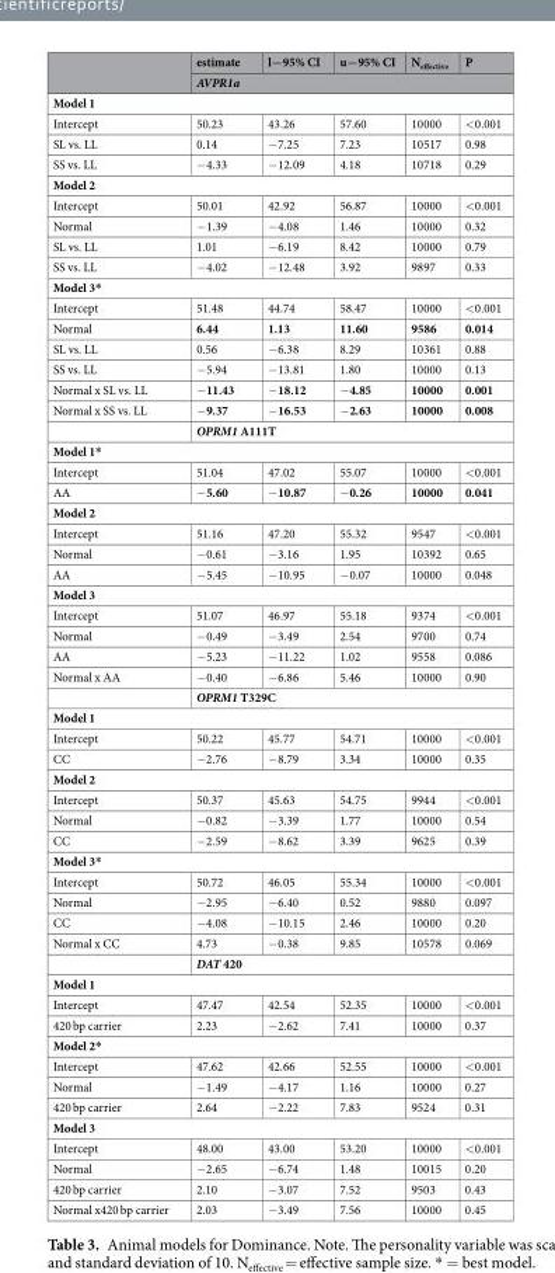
<table><thead><tr><td rowspan="2"></td><td>estimate</td><td>l−95% CI</td><td>u−95% CI</td><td>N<sub>effective</sub></td><td>P</td></tr><tr><td colspan="5">AVPR1a</td></tr></thead><tbody><tr><td colspan="6">Model 1</td></tr><tr><td>Intercept</td><td>50.23</td><td>43.26</td><td>57.60</td><td>10000</td><td>&lt;0.001</td></tr><tr><td>SL vs. LL</td><td>0.14</td><td>−7.25</td><td>7.23</td><td>10517</td><td>0.98</td></tr><tr><td>SS vs. LL</td><td>−4.33</td><td>−12.09</td><td>4.18</td><td>10718</td><td>0.29</td></tr><tr><td colspan="6">Model 2</td></tr><tr><td>Intercept</td><td>50.01</td><td>42.92</td><td>56.87</td><td>10000</td><td>&lt;0.001</td></tr><tr><td>Normal</td><td>−1.39</td><td>−4.08</td><td>1.46</td><td>10000</td><td>0.32</td></tr><tr><td>SL vs. LL</td><td>1.01</td><td>−6.19</td><td>8.42</td><td>10000</td><td>0.79</td></tr><tr><td>SS vs. LL</td><td>−4.02</td><td>−12.48</td><td>3.92</td><td>9897</td><td>0.33</td></tr><tr><td colspan="6">Model 3*</td></tr><tr><td>Intercept</td><td>51.48</td><td>44.74</td><td>58.47</td><td>10000</td><td>&lt;0.001</td></tr><tr><td>Normal</td><td>6.44</td><td>1.13</td><td>11.60</td><td>9586</td><td>0.014</td></tr><tr><td>SL vs. LL</td><td>0.56</td><td>−6.38</td><td>8.29</td><td>10361</td><td>0.88</td></tr><tr><td>SS vs. LL</td><td>−5.94</td><td>−13.81</td><td>1.80</td><td>10000</td><td>0.13</td></tr><tr><td>Normal x SL vs. LL</td><td>−11.43</td><td>−18.12</td><td>−4.85</td><td>10000</td><td>0.001</td></tr><tr><td rowspan="2">Normal x SS vs. LL</td><td>−9.37</td><td>−16.53</td><td>−2.63</td><td>10000</td><td>0.008</td></tr><tr><td colspan="5">OPRM1 A111T</td></tr><tr><td colspan="6">Model 1*</td></tr><tr><td>Intercept</td><td>51.04</td><td>47.02</td><td>55.07</td><td>10000</td><td>&lt;0.001</td></tr><tr><td>AA</td><td>−5.60</td><td>−10.87</td><td>−0.26</td><td>10000</td><td>0.041</td></tr><tr><td colspan="6">Model 2</td></tr><tr><td>Intercept</td><td>51.16</td><td>47.20</td><td>55.32</td><td>9547</td><td>&lt;0.001</td></tr><tr><td>Normal</td><td>−0.61</td><td>−3.16</td><td>1.95</td><td>10392</td><td>0.65</td></tr><tr><td>AA</td><td>−5.45</td><td>−10.95</td><td>−0.07</td><td>10000</td><td>0.048</td></tr><tr><td colspan="6">Model 3</td></tr><tr><td>Intercept</td><td>51.07</td><td>46.97</td><td>55.18</td><td>9374</td><td>&lt;0.001</td></tr><tr><td>Normal</td><td>−0.49</td><td>−3.49</td><td>2.54</td><td>9700</td><td>0.74</td></tr><tr><td>AA</td><td>−5.23</td><td>−11.22</td><td>1.02</td><td>9558</td><td>0.086</td></tr><tr><td rowspan="2">Normal x AA</td><td>−0.40</td><td>−6.86</td><td>5.46</td><td>10000</td><td>0.90</td></tr><tr><td colspan="5">OPRM1 T329C</td></tr><tr><td colspan="6">Model 1</td></tr><tr><td>Intercept</td><td>50.22</td><td>45.77</td><td>54.71</td><td>10000</td><td>&lt;0.001</td></tr><tr><td>CC</td><td>−2.76</td><td>−8.79</td><td>3.34</td><td>10000</td><td>0.35</td></tr><tr><td colspan="6">Model 2</td></tr><tr><td>Intercept</td><td>50.37</td><td>45.63</td><td>54.75</td><td>9944</td><td>&lt;0.001</td></tr><tr><td>Normal</td><td>−0.82</td><td>−3.39</td><td>1.77</td><td>10000</td><td>0.54</td></tr><tr><td>CC</td><td>−2.59</td><td>−8.62</td><td>3.39</td><td>9625</td><td>0.39</td></tr><tr><td colspan="6">Model 3*</td></tr><tr><td>Intercept</td><td>50.72</td><td>46.05</td><td>55.34</td><td>10000</td><td>&lt;0.001</td></tr><tr><td>Normal</td><td>−2.95</td><td>−6.40</td><td>0.52</td><td>9880</td><td>0.097</td></tr><tr><td>CC</td><td>−4.08</td><td>−10.15</td><td>2.46</td><td>10000</td><td>0.20</td></tr><tr><td rowspan="2">Normal x CC</td><td>4.73</td><td>−0.38</td><td>9.85</td><td>10578</td><td>0.069</td></tr><tr><td colspan="5">DAT 420</td></tr><tr><td colspan="6">Model 1</td></tr><tr><td>Intercept</td><td>47.47</td><td>42.54</td><td>52.35</td><td>10000</td><td>&lt;0.001</td></tr><tr><td>420 bp carrier</td><td>2.23</td><td>−2.62</td><td>7.41</td><td>10000</td><td>0.37</td></tr><tr><td colspan="6">Model 2*</td></tr><tr><td>Intercept</td><td>47.62</td><td>42.66</td><td>52.55</td><td>10000</td><td>&lt;0.001</td></tr><tr><td>Normal</td><td>−1.49</td><td>−4.17</td><td>1.16</td><td>10000</td><td>0.27</td></tr><tr><td>420 bp carrier</td><td>2.64</td><td>−2.22</td><td>7.83</td><td>9524</td><td>0.31</td></tr><tr><td colspan="6">Model 3</td></tr><tr><td>Intercept</td><td>48.00</td><td>43.00</td><td>53.20</td><td>10000</td><td>&lt;0.001</td></tr><tr><td>Normal</td><td>−2.65</td><td>−6.74</td><td>1.48</td><td>10015</td><td>0.20</td></tr><tr><td>420 bp carrier</td><td>2.10</td><td>−3.07</td><td>7.52</td><td>9503</td><td>0.43</td></tr><tr><td>Normal x420 bp carrier</td><td>2.03</td><td>−3.49</td><td>7.56</td><td>10000</td><td>0.45</td></tr></tbody></table>